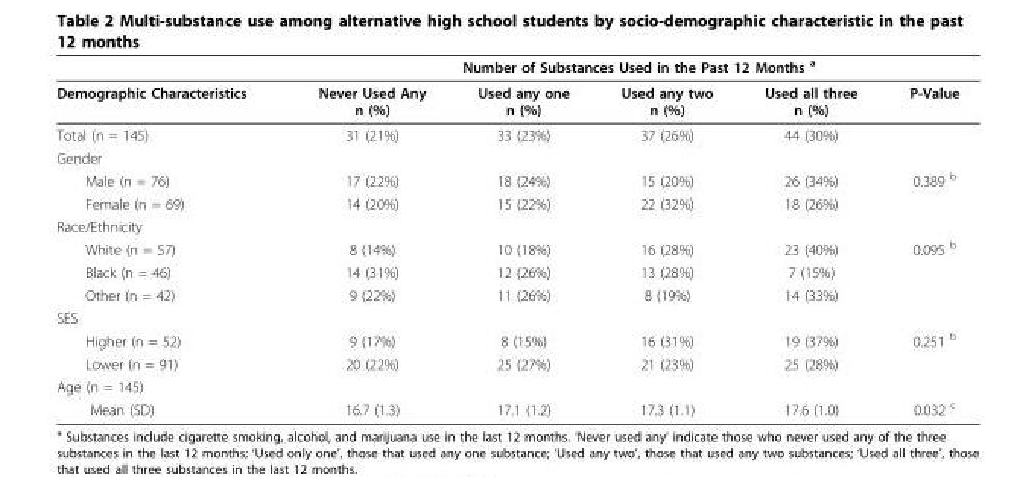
<table><thead><tr><td rowspan="2">Demographic Characteristics</td><td colspan="5">Number of Substances Used in the Past 12 Months <sup>a</sup></td></tr><tr><td>Never Used Any n (%)</td><td>Used any one n (%)</td><td>Used any two n (%)</td><td>Used all three n (%)</td><td>P-Value</td></tr></thead><tbody><tr><td>Total (n = 145)</td><td>31 (21%)</td><td>33 (23%)</td><td>37 (26%)</td><td>44 (30%)</td><td></td></tr><tr><td colspan="6">Gender</td></tr><tr><td>Male (n = 76)</td><td>17 (22%)</td><td>18 (24%)</td><td>15 (20%)</td><td>26 (34%)</td><td>0.389 <sup>b</sup></td></tr><tr><td>Female (n = 69)</td><td>14 (20%)</td><td>15 (22%)</td><td>22 (32%)</td><td>18 (26%)</td><td></td></tr><tr><td colspan="6">Race/Ethnicity</td></tr><tr><td>White (n = 57)</td><td>8 (14%)</td><td>10 (18%)</td><td>16 (28%)</td><td>23 (40%)</td><td>0.095 <sup>b</sup></td></tr><tr><td>Black (n = 46)</td><td>14 (31%)</td><td>12 (26%)</td><td>13 (28%)</td><td>7 (15%)</td><td></td></tr><tr><td>Other (n = 42)</td><td>9 (22%)</td><td>11 (26%)</td><td>8 (19%)</td><td>14 (33%)</td><td></td></tr><tr><td colspan="6">SES</td></tr><tr><td>Higher (n = 52)</td><td>9 (17%)</td><td>8 (15%)</td><td>16 (31%)</td><td>19 (37%)</td><td>0.251 <sup>b</sup></td></tr><tr><td>Lower (n = 91)</td><td>20 (22%)</td><td>25 (27%)</td><td>21 (23%)</td><td>25 (28%)</td><td></td></tr><tr><td colspan="6">Age (n = 145)</td></tr><tr><td>Mean (SD)</td><td>16.7 (1.3)</td><td>17.1 (1.2)</td><td>17.3 (1.1)</td><td>17.6 (1.0)</td><td>0.032 <sup>c</sup></td></tr></tbody></table>